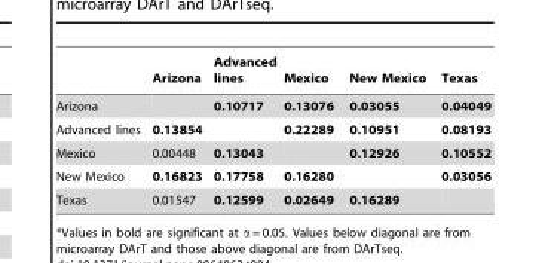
<table><thead><tr><td></td><td>Arizona</td><td>Advanced lines</td><td>Mexico</td><td>New Mexico</td><td>Texas</td></tr></thead><tbody><tr><td>Arizona</td><td></td><td>0.10717</td><td>0.13076</td><td>0.03055</td><td>0.04049</td></tr><tr><td>Advanced lines</td><td>0.13854</td><td></td><td>0.22289</td><td>0.10951</td><td>0.08193</td></tr><tr><td>Mexico</td><td>0.00448</td><td>0.13043</td><td></td><td>0.12926</td><td>0.10552</td></tr><tr><td>New Mexico</td><td>0.16823</td><td>0.17758</td><td>0.16280</td><td></td><td>0.03056</td></tr><tr><td>Texas</td><td>0.01547</td><td>0.12599</td><td>0.02649</td><td>0.16289</td><td></td></tr></tbody></table>